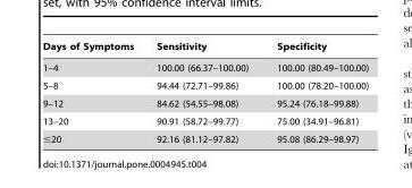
<table><thead><tr><td>Days of Symptoms</td><td>Sensitivity</td><td>Specificity</td></tr></thead><tbody><tr><td>1–4</td><td>100.00 (66.37–100.00)</td><td>100.00 (80.49–100.00)</td></tr><tr><td>5–8</td><td>94.44 (72.71–99.86)</td><td>100.00 (78.20–100.00)</td></tr><tr><td>9–12</td><td>84.62 (54.55–98.08)</td><td>95.24 (76.18–99.88)</td></tr><tr><td>13–20</td><td>90.91 (58.72–99.77)</td><td>75.00 (34.91–96.81)</td></tr><tr><td>≤20</td><td>92.16 (81.12–97.82)</td><td>95.08 (86.29–98.97)</td></tr></tbody></table>